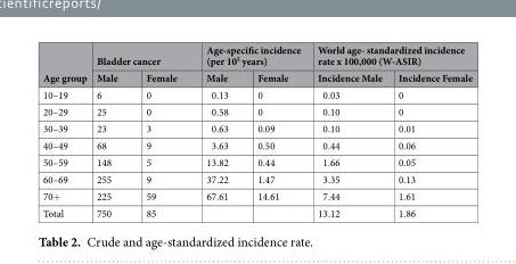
<table><thead><tr><td rowspan="2">Age group</td><td colspan="2">Bladder cancer</td><td colspan="2">Age-specific incidence (per 10<sup>5</sup> years)</td><td colspan="2">World age- standardized incidence rate x 100,000 (W-ASIR)</td></tr><tr><td>Male</td><td>Female</td><td>Male</td><td>Female</td><td>Incidence Male</td><td>Incidence Female</td></tr></thead><tbody><tr><td>10–19</td><td>6</td><td>0</td><td>0.13</td><td>0</td><td>0.03</td><td>0</td></tr><tr><td>20–29</td><td>25</td><td>0</td><td>0.58</td><td>0</td><td>0.10</td><td>0</td></tr><tr><td>30–39</td><td>23</td><td>3</td><td>0.63</td><td>0.09</td><td>0.10</td><td>0.01</td></tr><tr><td>40–49</td><td>68</td><td>9</td><td>3.63</td><td>0.50</td><td>0.44</td><td>0.06</td></tr><tr><td>50–59</td><td>148</td><td>5</td><td>13.82</td><td>0.44</td><td>1.66</td><td>0.05</td></tr><tr><td>60–69</td><td>255</td><td>9</td><td>37.22</td><td>1.47</td><td>3.35</td><td>0.13</td></tr><tr><td>70+</td><td>225</td><td>59</td><td>67.61</td><td>14.61</td><td>7.44</td><td>1.61</td></tr><tr><td>Total</td><td>750</td><td>85</td><td></td><td></td><td>13.12</td><td>1.86</td></tr></tbody></table>